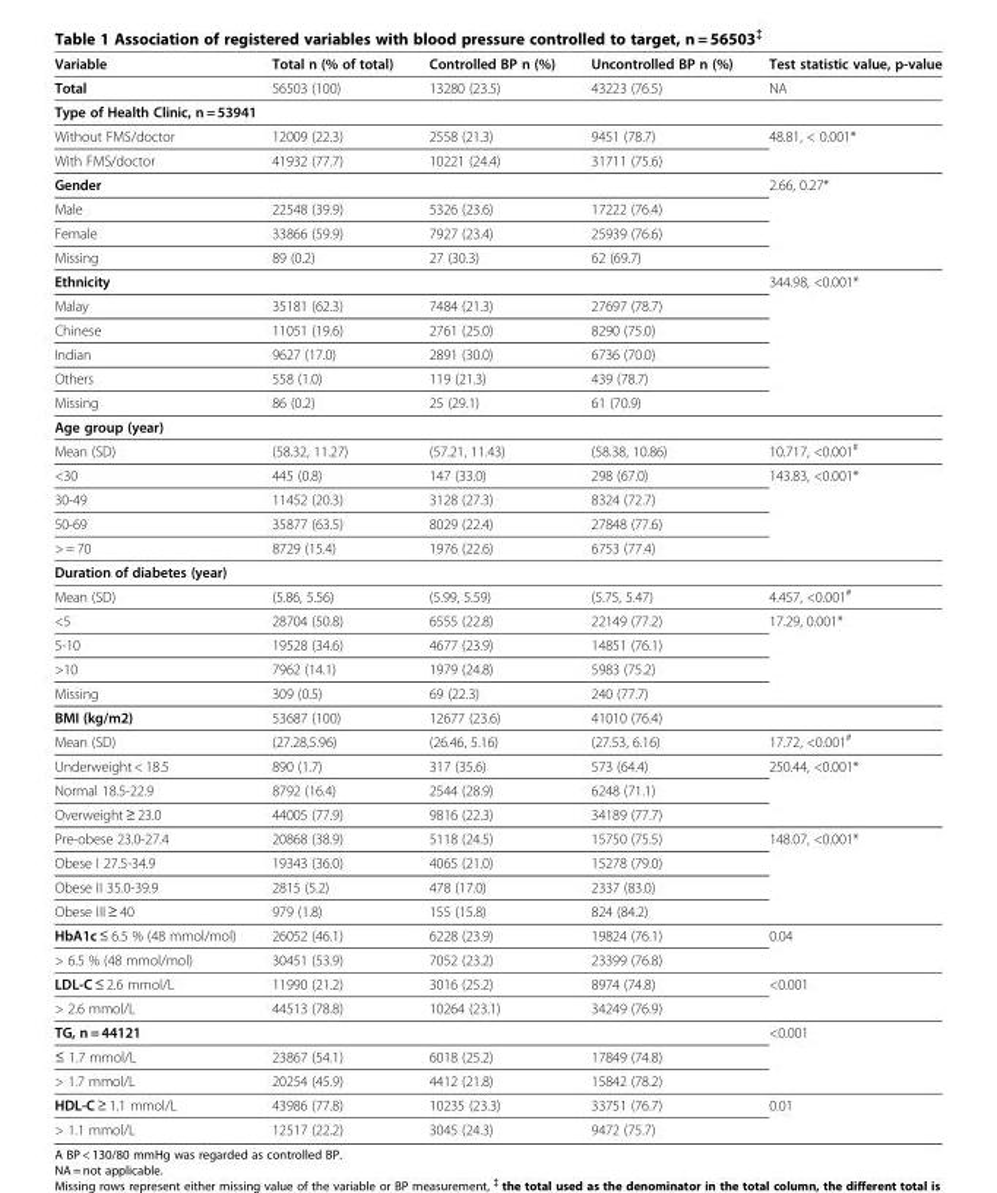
<table><tbody><tr><td>Variable</td><td>Total n (% of total)</td><td>Controlled BP n (%)</td><td>Uncontrolled BP n (%)</td><td>Test statistic value, p-value</td></tr><tr><td>Total</td><td>56503 (100)</td><td>13280 (23.5)</td><td>43223 (76.5)</td><td>NA</td></tr><tr><td colspan="5">Type of Health Clinic, n = 53941</td></tr><tr><td>Without FMS/doctor</td><td>12009 (22.3)</td><td>2558 (21.3)</td><td>9451 (78.7)</td><td rowspan="2">48.81, &lt; 0.001*</td></tr><tr><td>With FMS/doctor</td><td>41932 (77.7)</td><td>10221 (24.4)</td><td>31711 (75.6)</td></tr><tr><td colspan="4">Gender</td><td rowspan="4">2.66, 0.27*</td></tr><tr><td>Male</td><td>22548 (39.9)</td><td>5326 (23.6)</td><td>17222 (76.4)</td></tr><tr><td>Female</td><td>33866 (59.9)</td><td>7927 (23.4)</td><td>25939 (76.6)</td></tr><tr><td>Missing</td><td>89 (0.2)</td><td>27 (30.3)</td><td>62 (69.7)</td></tr><tr><td colspan="4">Ethnicity</td><td rowspan="6">344.98, &lt;0.001*</td></tr><tr><td>Malay</td><td>35181 (62.3)</td><td>7484 (21.3)</td><td>27697 (78.7)</td></tr><tr><td>Chinese</td><td>11051 (19.6)</td><td>2761 (25.0)</td><td>8290 (75.0)</td></tr><tr><td>Indian</td><td>9627 (17.0)</td><td>2891 (30.0)</td><td>6736 (70.0)</td></tr><tr><td>Others</td><td>558 (1.0)</td><td>119 (21.3)</td><td>439 (78.7)</td></tr><tr><td>Missing</td><td>86 (0.2)</td><td>25 (29.1)</td><td>61 (70.9)</td></tr><tr><td colspan="5">Age group (year)</td></tr><tr><td>Mean (SD)</td><td>(58.32, 11.27)</td><td>(57.21, 11.43)</td><td>(58.38, 10.86)</td><td>10.717, &lt;0.001<sup>#</sup></td></tr><tr><td>&lt;30</td><td>445 (0.8)</td><td>147 (33.0)</td><td>298 (67.0)</td><td rowspan="4">143.83, &lt;0.001*</td></tr><tr><td>30-49</td><td>11452 (20.3)</td><td>3128 (27.3)</td><td>8324 (72.7)</td></tr><tr><td>50-69</td><td>35877 (63.5)</td><td>8029 (22.4)</td><td>27848 (77.6)</td></tr><tr><td>&gt; = 70</td><td>8729 (15.4)</td><td>1976 (22.6)</td><td>6753 (77.4)</td></tr><tr><td colspan="5">Duration of diabetes (year)</td></tr><tr><td>Mean (SD)</td><td>(5.86, 5.56)</td><td>(5.99, 5.59)</td><td>(5.75, 5.47)</td><td>4.457, &lt;0.001<sup>#</sup></td></tr><tr><td>&lt;5</td><td>28704 (50.8)</td><td>6555 (22.8)</td><td>22149 (77.2)</td><td rowspan="4">17.29, 0.001*</td></tr><tr><td>5-10</td><td>19528 (34.6)</td><td>4677 (23.9)</td><td>14851 (76.1)</td></tr><tr><td>&gt;10</td><td>7962 (14.1)</td><td>1979 (24.8)</td><td>5983 (75.2)</td></tr><tr><td>Missing</td><td>309 (0.5)</td><td>69 (22.3)</td><td>240 (77.7)</td></tr><tr><td>BMI (kg/m2)</td><td>53687 (100)</td><td>12677 (23.6)</td><td>41010 (76.4)</td><td></td></tr><tr><td>Mean (SD)</td><td>(27.28,5.96)</td><td>(26.46, 5.16)</td><td>(27.53, 6.16)</td><td>17.72, &lt;0.001<sup>#</sup></td></tr><tr><td>Underweight &lt; 18.5</td><td>890 (1.7)</td><td>317 (35.6)</td><td>573 (64.4)</td><td rowspan="3">250.44, &lt;0.001*</td></tr><tr><td>Normal 18.5-22.9</td><td>8792 (16.4)</td><td>2544 (28.9)</td><td>6248 (71.1)</td></tr><tr><td>Overweight ≥ 23.0</td><td>44005 (77.9)</td><td>9816 (22.3)</td><td>34189 (77.7)</td></tr><tr><td>Pre-obese 23.0-27.4</td><td>20868 (38.9)</td><td>5118 (24.5)</td><td>15750 (75.5)</td><td rowspan="4">148.07, &lt;0.001*</td></tr><tr><td>Obese I 27.5-34.9</td><td>19343 (36.0)</td><td>4065 (21.0)</td><td>15278 (79.0)</td></tr><tr><td>Obese II 35.0-39.9</td><td>2815 (5.2)</td><td>478 (17.0)</td><td>2337 (83.0)</td></tr><tr><td>Obese III ≥ 40</td><td>979 (1.8)</td><td>155 (15.8)</td><td>824 (84.2)</td></tr><tr><td>HbA1c ≤ 6.5 % (48 mmol/mol)</td><td>26052 (46.1)</td><td>6228 (23.9)</td><td>19824 (76.1)</td><td rowspan="2">0.04</td></tr><tr><td>&gt; 6.5 % (48 mmol/mol)</td><td>30451 (53.9)</td><td>7052 (23.2)</td><td>23399 (76.8)</td></tr><tr><td>LDL-C ≤ 2.6 mmol/L</td><td>11990 (21.2)</td><td>3016 (25.2)</td><td>8974 (74.8)</td><td rowspan="2">&lt;0.001</td></tr><tr><td>&gt; 2.6 mmol/L</td><td>44513 (78.8)</td><td>10264 (23.1)</td><td>34249 (76.9)</td></tr><tr><td colspan="4">TG, n = 44121</td><td rowspan="3">&lt;0.001</td></tr><tr><td>≤ 1.7 mmol/L</td><td>23867 (54.1)</td><td>6018 (25.2)</td><td>17849 (74.8)</td></tr><tr><td>&gt; 1.7 mmol/L</td><td>20254 (45.9)</td><td>4412 (21.8)</td><td>15842 (78.2)</td></tr><tr><td>HDL-C ≥ 1.1 mmol/L</td><td>43986 (77.8)</td><td>10235 (23.3)</td><td>33751 (76.7)</td><td rowspan="2">0.01</td></tr><tr><td>&gt; 1.1 mmol/L</td><td>12517 (22.2)</td><td>3045 (24.3)</td><td>9472 (75.7)</td></tr></tbody></table>